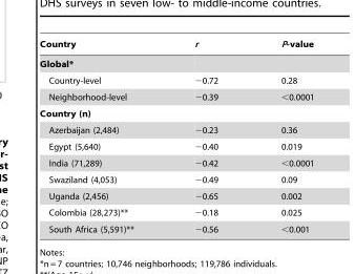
<table><thead><tr><td>Country</td><td>r</td><td>P-value</td></tr></thead><tbody><tr><td colspan="3">Global*</td></tr><tr><td>Country-level</td><td>−0.72</td><td>0.28</td></tr><tr><td>Neighborhood-level</td><td>−0.39</td><td>&lt;0.0001</td></tr><tr><td colspan="3">Country (n)</td></tr><tr><td>Azerbaijan (2,484)</td><td>−0.23</td><td>0.36</td></tr><tr><td>Egypt (5,640)</td><td>−0.40</td><td>0.019</td></tr><tr><td>India (71,289)</td><td>−0.42</td><td>&lt;0.0001</td></tr><tr><td>Swaziland (4,053)</td><td>−0.49</td><td>0.09</td></tr><tr><td>Uganda (2,456)</td><td>−0.65</td><td>0.002</td></tr><tr><td>Colombia (28,273)**</td><td>−0.18</td><td>0.025</td></tr><tr><td>South Africa (5,591)**</td><td>−0.56</td><td>&lt;0.001</td></tr></tbody></table>